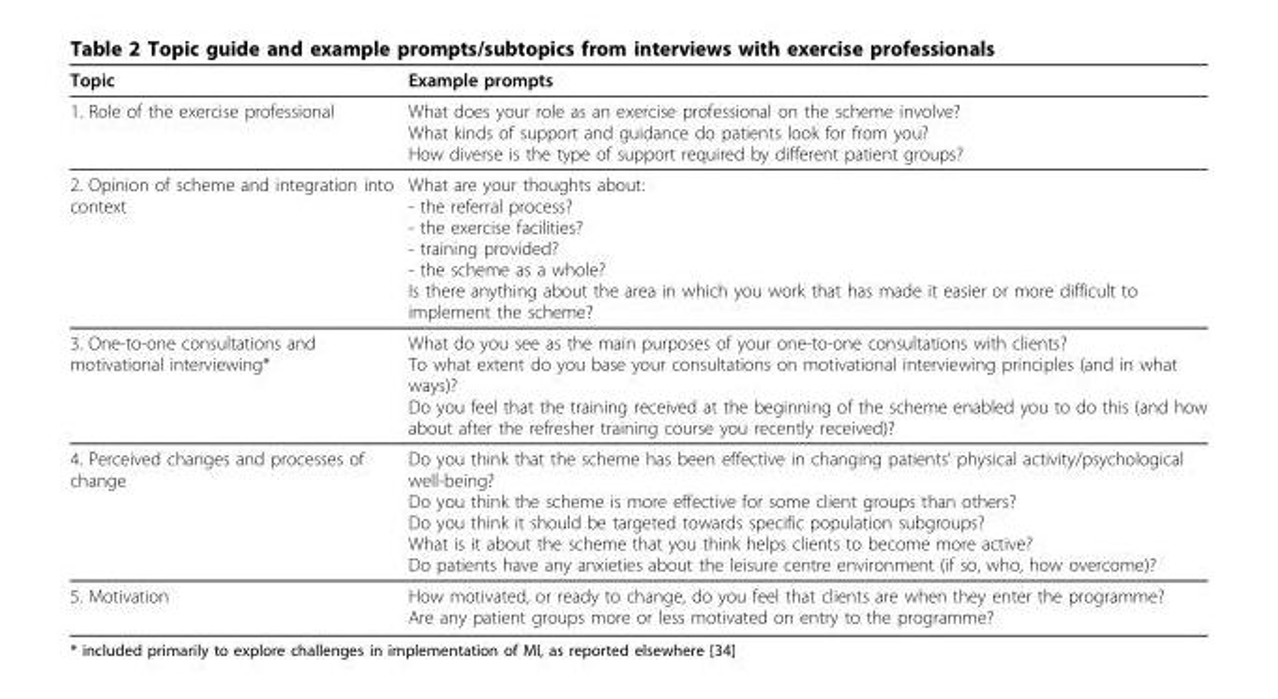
<table><thead><tr><td>Topic</td><td>Example prompts</td></tr></thead><tbody><tr><td>1. Role of the exercise professional</td><td>What does your role as an exercise professional on the scheme involve? What kinds of support and guidance do patients look for from you? How diverse is the type of support required by different patient groups?</td></tr><tr><td>2. Opinion of scheme and integration into context</td><td>What are your thoughts about: - the referral process? - the exercise facilities? - training provided? - the scheme as a whole? Is there anything about the area in which you work that has made it easier or more difficult to implement the scheme?</td></tr><tr><td>3. One-to-one consultations and motivational interviewing*</td><td>What do you see as the main purposes of your one-to-one consultations with clients? To what extent do you base your consultations on motivational interviewing principles (and in what ways)? Do you feel that the training received at the beginning of the scheme enabled you to do this (and how about after the refresher training course you recently received)?</td></tr><tr><td>4. Perceived changes and processes of change</td><td>Do you think that the scheme has been effective in changing patients’ physical activity/psychological well-being? Do you think the scheme is more effective for some client groups than others? Do you think it should be targeted towards specific population subgroups? What is it about the scheme that you think helps clients to become more active? Do patients have any anxieties about the leisure centre environment (if so, who, how overcome)?</td></tr><tr><td>5. Motivation</td><td>How motivated, or ready to change, do you feel that clients are when they enter the programme? Are any patient groups more or less motivated on entry to the programme?</td></tr></tbody></table>